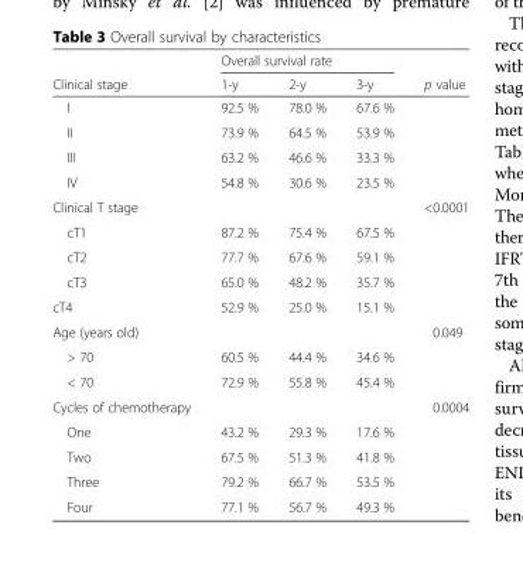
<table><thead><tr><td rowspan="2">Clinical stage</td><td colspan="3">Overall survival rate</td><td rowspan="2">p value</td></tr><tr><td>1-y</td><td>2-y</td><td>3-y</td></tr></thead><tbody><tr><td>I</td><td>92.5 %</td><td>78.0 %</td><td>67.6 %</td><td></td></tr><tr><td>II</td><td>73.9 %</td><td>64.5 %</td><td>53.9 %</td><td></td></tr><tr><td>III</td><td>63.2 %</td><td>46.6 %</td><td>33.3 %</td><td></td></tr><tr><td>IV</td><td>54.8 %</td><td>30.6 %</td><td>23.5 %</td><td></td></tr><tr><td>Clinical T stage</td><td></td><td></td><td></td><td>&lt;0.0001</td></tr><tr><td>cT1</td><td>87.2 %</td><td>75.4 %</td><td>67.5 %</td><td></td></tr><tr><td>cT2</td><td>77.7 %</td><td>67.6 %</td><td>59.1 %</td><td></td></tr><tr><td>cT3</td><td>65.0 %</td><td>48.2 %</td><td>35.7 %</td><td></td></tr><tr><td>cT4</td><td>52.9 %</td><td>25.0 %</td><td>15.1 %</td><td></td></tr><tr><td>Age (years old)</td><td></td><td></td><td></td><td>0.049</td></tr><tr><td>&gt; 70</td><td>60.5 %</td><td>44.4 %</td><td>34.6 %</td><td></td></tr><tr><td>&lt; 70</td><td>72.9 %</td><td>55.8 %</td><td>45.4 %</td><td></td></tr><tr><td>Cycles of chemotherapy</td><td></td><td></td><td></td><td>0.0004</td></tr><tr><td>One</td><td>43.2 %</td><td>29.3 %</td><td>17.6 %</td><td></td></tr><tr><td>Two</td><td>67.5 %</td><td>51.3 %</td><td>41.8 %</td><td></td></tr><tr><td>Three</td><td>79.2 %</td><td>66.7 %</td><td>53.5 %</td><td></td></tr><tr><td>Four</td><td>77.1 %</td><td>56.7 %</td><td>49.3 %</td><td></td></tr></tbody></table>